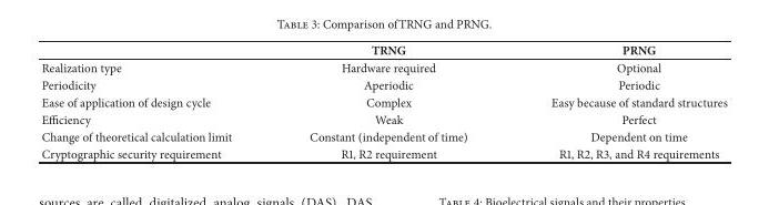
<table><thead><tr><td></td><td>TRNG</td><td>PRNG</td></tr></thead><tbody><tr><td>Realization type</td><td>Hardware required</td><td>Optional</td></tr><tr><td>Periodicity</td><td>Aperiodic</td><td>Periodic</td></tr><tr><td>Ease of application of design cycle</td><td>Complex</td><td>Easy because of standard structures</td></tr><tr><td>Efficiency</td><td>Weak</td><td>Perfect</td></tr><tr><td>Change of theoretical calculation limit</td><td>Constant (independent of time)</td><td>Dependent on time</td></tr><tr><td>Cryptographic security requirement</td><td>R1, R2 requirement</td><td>R1, R2, R3, and R4 requirements</td></tr></tbody></table>